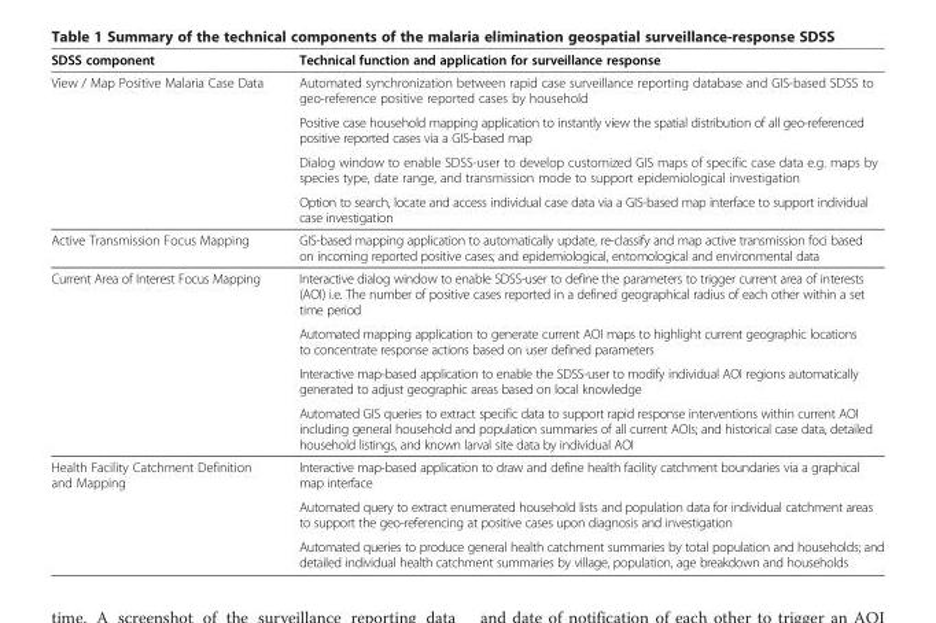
<table><thead><tr><td>SDSS component</td><td>Technical function and application for surveillance response</td></tr></thead><tbody><tr><td rowspan="4">View / Map Positive Malaria Case Data</td><td>Automated synchronization between rapid case surveillance reporting database and GIS-based SDSS to geo-reference positive reported cases by household</td></tr><tr><td>Positive case household mapping application to instantly view the spatial distribution of all geo-referenced positive reported cases via a GIS-based map</td></tr><tr><td>Dialog window to enable SDSS-user to develop customized GIS maps of specific case data e.g. maps by species type, date range, and transmission mode to support epidemiological investigation</td></tr><tr><td>Option to search, locate and access individual case data via a GIS-based map interface to support individual case investigation</td></tr><tr><td>Active Transmission Focus Mapping</td><td>GIS-based mapping application to automatically update, re-classify and map active transmission foci based on incoming reported positive cases; and epidemiological, entomological and environmental data</td></tr><tr><td rowspan="4">Current Area of Interest Focus Mapping</td><td>Interactive dialog window to enable SDSS-user to define the parameters to trigger current area of interests (AOI) i.e. The number of positive cases reported in a defined geographical radius of each other within a set time period</td></tr><tr><td>Automated mapping application to generate current AOI maps to highlight current geographic locations to concentrate response actions based on user defined parameters</td></tr><tr><td>Interactive map-based application to enable the SDSS-user to modify individual AOI regions automatically generated to adjust geographic areas based on local knowledge</td></tr><tr><td>Automated GIS queries to extract specific data to support rapid response interventions within current AOI including general household and population summaries of all current AOIs; and historical case data, detailed household listings, and known larval site data by individual AOI</td></tr><tr><td rowspan="3">Health Facility Catchment Definition and Mapping</td><td>Interactive map-based application to draw and define health facility catchment boundaries via a graphical map interface</td></tr><tr><td>Automated query to extract enumerated household lists and population data for individual catchment areas to support the geo-referencing at positive cases upon diagnosis and investigation</td></tr><tr><td>Automated queries to produce general health catchment summaries by total population and households; and detailed individual health catchment summaries by village, population, age breakdown and households</td></tr></tbody></table>